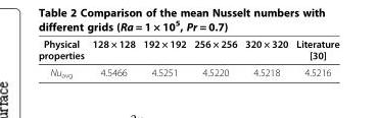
<table><thead><tr><td>Physical properties</td><td>128 × 128</td><td>192 × 192</td><td>256 × 256</td><td>320 × 320</td><td>Literature [30]</td></tr></thead><tbody><tr><td>Nu<sub>avg</sub></td><td>4.5466</td><td>4.5251</td><td>4.5220</td><td>4.5218</td><td>4.5216</td></tr></tbody></table>